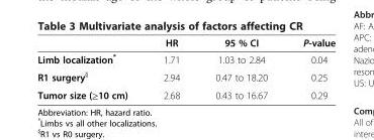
<table><thead><tr><td></td><td>HR</td><td>95 % CI</td><td>P-value</td></tr></thead><tbody><tr><td>Limb localization*</td><td>1.71</td><td>1.03 to 2.84</td><td>0.04</td></tr><tr><td>R1 surgery<sup>§</sup></td><td>2.94</td><td>0.47 to 18.20</td><td>0.25</td></tr><tr><td>Tumor size (≥10 cm)</td><td>2.68</td><td>0.43 to 16.67</td><td>0.29</td></tr></tbody></table>